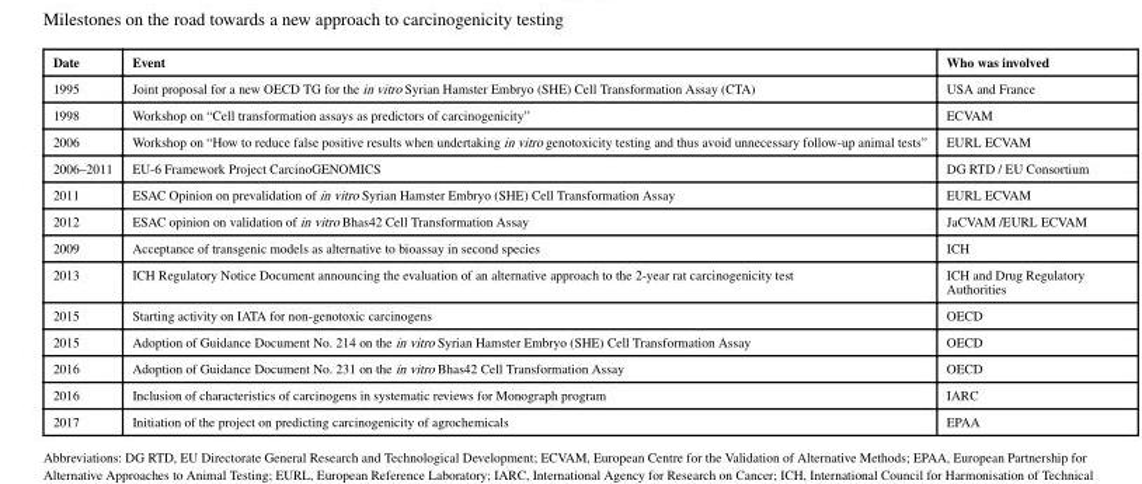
<table><thead><tr><td>Date</td><td>Event</td><td>Who was involved</td></tr></thead><tbody><tr><td>1995</td><td>Joint proposal for a new OECD TG for the in vitro Syrian Hamster Embryo (SHE) Cell Transformation Assay (CTA)</td><td>USA and France</td></tr><tr><td>1998</td><td>Workshop on “Cell transformation assays as predictors of carcinogenicity”</td><td>ECVAM</td></tr><tr><td>2006</td><td>Workshop on “How to reduce false positive results when undertaking in vitro genotoxicity testing and thus avoid unnecessary follow-up animal tests”</td><td>EURL ECVAM</td></tr><tr><td>2006–2011</td><td>EU-6 Framework Project CarcinoGENOMICS</td><td>DG RTD / EU Consortium</td></tr><tr><td>2011</td><td>ESAC Opinion on prevalidation of in vitro Syrian Hamster Embryo (SHE) Cell Transformation Assay</td><td>EURL ECVAM</td></tr><tr><td>2012</td><td>ESAC opinion on validation of in vitro Bhas42 Cell Transformation Assay</td><td>JaCVAM /EURL ECVAM</td></tr><tr><td>2009</td><td>Acceptance of transgenic models as alternative to bioassay in second species</td><td>ICH</td></tr><tr><td>2013</td><td>ICH Regulatory Notice Document announcing the evaluation of an alternative approach to the 2-year rat carcinogenicity test</td><td>ICH and Drug Regulatory Authorities</td></tr><tr><td>2015</td><td>Starting activity on IATA for non-genotoxic carcinogens</td><td>OECD</td></tr><tr><td>2015</td><td>Adoption of Guidance Document No. 214 on the in vitro Syrian Hamster Embryo (SHE) Cell Transformation Assay</td><td>OECD</td></tr><tr><td>2016</td><td>Adoption of Guidance Document No. 231 on the in vitro Bhas42 Cell Transformation Assay</td><td>OECD</td></tr><tr><td>2016</td><td>Inclusion of characteristics of carcinogens in systematic reviews for Monograph program</td><td>IARC</td></tr><tr><td>2017</td><td>Initiation of the project on predicting carcinogenicity of agrochemicals</td><td>EPAA</td></tr></tbody></table>